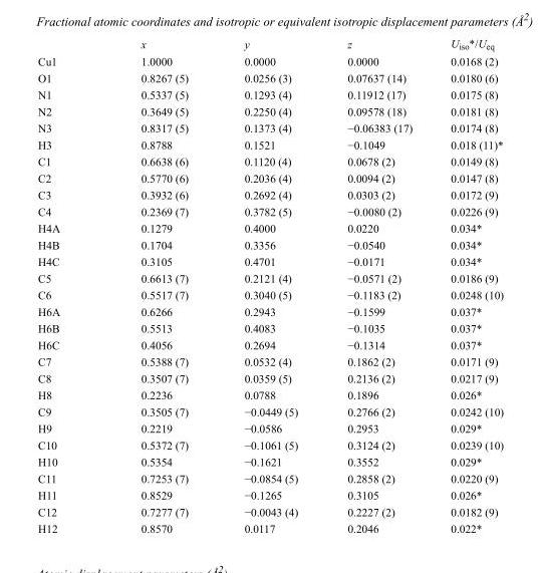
<table><thead><tr><td></td><td>x</td><td>y</td><td>z</td><td>U<sub>iso</sub>*/U<sub>eq</sub></td></tr></thead><tbody><tr><td>Cu1</td><td>1.0000</td><td>0.0000</td><td>0.0000</td><td>0.0168 (2)</td></tr><tr><td>O1</td><td>0.8267 (5)</td><td>0.0256 (3)</td><td>0.07637 (14)</td><td>0.0180 (6)</td></tr><tr><td>N1</td><td>0.5337 (5)</td><td>0.1293 (4)</td><td>0.11912 (17)</td><td>0.0175 (8)</td></tr><tr><td>N2</td><td>0.3649 (5)</td><td>0.2250 (4)</td><td>0.09578 (18)</td><td>0.0181 (8)</td></tr><tr><td>N3</td><td>0.8317 (5)</td><td>0.1373 (4)</td><td>−0.06383 (17)</td><td>0.0174 (8)</td></tr><tr><td>H3</td><td>0.8788</td><td>0.1521</td><td>−0.1049</td><td>0.018 (11)*</td></tr><tr><td>C1</td><td>0.6638 (6)</td><td>0.1120 (4)</td><td>0.0678 (2)</td><td>0.0149 (8)</td></tr><tr><td>C2</td><td>0.5770 (6)</td><td>0.2036 (4)</td><td>0.0094 (2)</td><td>0.0147 (8)</td></tr><tr><td>C3</td><td>0.3932 (6)</td><td>0.2692 (4)</td><td>0.0303 (2)</td><td>0.0172 (9)</td></tr><tr><td>C4</td><td>0.2369 (7)</td><td>0.3782 (5)</td><td>−0.0080 (2)</td><td>0.0226 (9)</td></tr><tr><td>H4A</td><td>0.1279</td><td>0.4000</td><td>0.0220</td><td>0.034*</td></tr><tr><td>H4B</td><td>0.1704</td><td>0.3356</td><td>−0.0540</td><td>0.034*</td></tr><tr><td>H4C</td><td>0.3105</td><td>0.4701</td><td>−0.0171</td><td>0.034*</td></tr><tr><td>C5</td><td>0.6613 (7)</td><td>0.2121 (4)</td><td>−0.0571 (2)</td><td>0.0186 (9)</td></tr><tr><td>C6</td><td>0.5517 (7)</td><td>0.3040 (5)</td><td>−0.1183 (2)</td><td>0.0248 (10)</td></tr><tr><td>H6A</td><td>0.6266</td><td>0.2943</td><td>−0.1599</td><td>0.037*</td></tr><tr><td>H6B</td><td>0.5513</td><td>0.4083</td><td>−0.1035</td><td>0.037*</td></tr><tr><td>H6C</td><td>0.4056</td><td>0.2694</td><td>−0.1314</td><td>0.037*</td></tr><tr><td>C7</td><td>0.5388 (7)</td><td>0.0532 (4)</td><td>0.1862 (2)</td><td>0.0171 (9)</td></tr><tr><td>C8</td><td>0.3507 (7)</td><td>0.0359 (5)</td><td>0.2136 (2)</td><td>0.0217 (9)</td></tr><tr><td>H8</td><td>0.2236</td><td>0.0788</td><td>0.1896</td><td>0.026*</td></tr><tr><td>C9</td><td>0.3505 (7)</td><td>−0.0449 (5)</td><td>0.2766 (2)</td><td>0.0242 (10)</td></tr><tr><td>H9</td><td>0.2219</td><td>−0.0586</td><td>0.2953</td><td>0.029*</td></tr><tr><td>C10</td><td>0.5372 (7)</td><td>−0.1061 (5)</td><td>0.3124 (2)</td><td>0.0239 (10)</td></tr><tr><td>H10</td><td>0.5354</td><td>−0.1621</td><td>0.3552</td><td>0.029*</td></tr><tr><td>C11</td><td>0.7253 (7)</td><td>−0.0854 (5)</td><td>0.2858 (2)</td><td>0.0220 (9)</td></tr><tr><td>H11</td><td>0.8529</td><td>−0.1265</td><td>0.3105</td><td>0.026*</td></tr><tr><td>C12</td><td>0.7277 (7)</td><td>−0.0043 (4)</td><td>0.2227 (2)</td><td>0.0182 (9)</td></tr><tr><td>H12</td><td>0.8570</td><td>0.0117</td><td>0.2046</td><td>0.022*</td></tr></tbody></table>